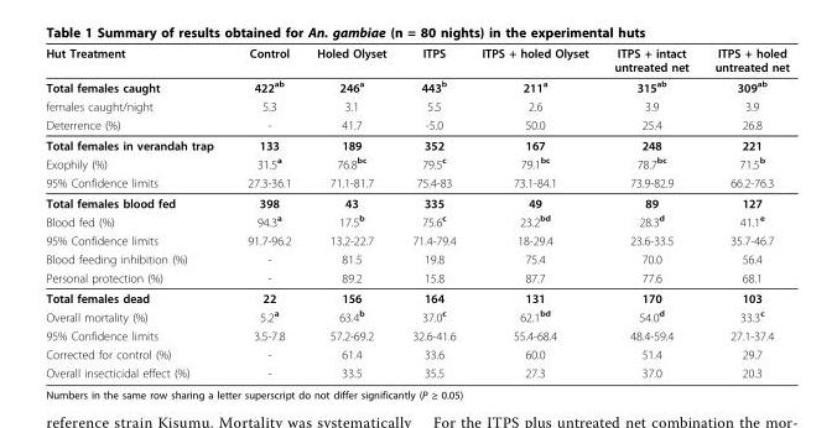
<table><thead><tr><td>Hut Treatment</td><td>Control</td><td>Holed Olyset</td><td>ITPS</td><td>ITPS + holed Olyset</td><td>ITPS + intact untreated net</td><td>ITPS + holed untreated net</td></tr></thead><tbody><tr><td>Total females caught</td><td>422<sup>ab</sup></td><td>246<sup>a</sup></td><td>443<sup>b</sup></td><td>211<sup>a</sup></td><td>315<sup>ab</sup></td><td>309<sup>ab</sup></td></tr><tr><td>females caught/night</td><td>5.3</td><td>3.1</td><td>5.5</td><td>2.6</td><td>3.9</td><td>3.9</td></tr><tr><td>Deterrence (%)</td><td>-</td><td>41.7</td><td>-5.0</td><td>50.0</td><td>25.4</td><td>26.8</td></tr><tr><td>Total females in verandah trap</td><td>133</td><td>189</td><td>352</td><td>167</td><td>248</td><td>221</td></tr><tr><td>Exophily (%)</td><td>31.5<sup>a</sup></td><td>76.8<sup>bc</sup></td><td>79.5<sup>c</sup></td><td>79.1<sup>bc</sup></td><td>78.7<sup>bc</sup></td><td>71.5<sup>b</sup></td></tr><tr><td>95% Confidence limits</td><td>27.3-36.1</td><td>71.1-81.7</td><td>75.4-83</td><td>73.1-84.1</td><td>73.9-82.9</td><td>66.2-76.3</td></tr><tr><td>Total females blood fed</td><td>398</td><td>43</td><td>335</td><td>49</td><td>89</td><td>127</td></tr><tr><td>Blood fed (%)</td><td>94.3<sup>a</sup></td><td>17.5<sup>b</sup></td><td>75.6<sup>c</sup></td><td>23.2<sup>bd</sup></td><td>28.3<sup>d</sup></td><td>41.1<sup>e</sup></td></tr><tr><td>95% Confidence limits</td><td>91.7-96.2</td><td>13.2-22.7</td><td>71.4-79.4</td><td>18-29.4</td><td>23.6-33.5</td><td>35.7-46.7</td></tr><tr><td>Blood feeding inhibition (%)</td><td>-</td><td>81.5</td><td>19.8</td><td>75.4</td><td>70.0</td><td>56.4</td></tr><tr><td>Personal protection (%)</td><td>-</td><td>89.2</td><td>15.8</td><td>87.7</td><td>77.6</td><td>68.1</td></tr><tr><td>Total females dead</td><td>22</td><td>156</td><td>164</td><td>131</td><td>170</td><td>103</td></tr><tr><td>Overall mortality (%)</td><td>5.2<sup>a</sup></td><td>63.4<sup>b</sup></td><td>37.0<sup>c</sup></td><td>62.1<sup>bd</sup></td><td>54.0<sup>d</sup></td><td>33.3<sup>c</sup></td></tr><tr><td>95% Confidence limits</td><td>3.5-7.8</td><td>57.2-69.2</td><td>32.6-41.6</td><td>55.4-68.4</td><td>48.4-59.4</td><td>27.1-37.4</td></tr><tr><td>Corrected for control (%)</td><td>-</td><td>61.4</td><td>33.6</td><td>60.0</td><td>51.4</td><td>29.7</td></tr><tr><td>Overall insecticidal effect (%)</td><td>-</td><td>33.5</td><td>35.5</td><td>27.3</td><td>37.0</td><td>20.3</td></tr></tbody></table>